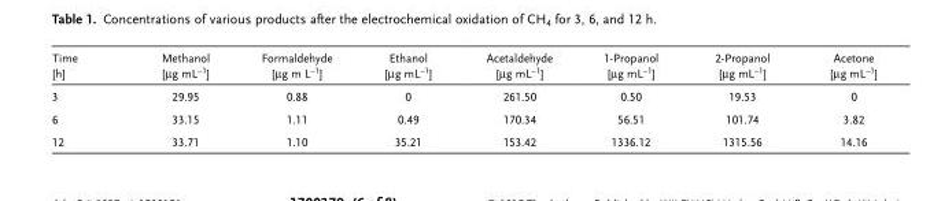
<table><thead><tr><td>Time [h]</td><td>Methanol [µg mL<sup>−1</sup>]</td><td>Formaldehyde [µg m L<sup>−1</sup>]</td><td>Ethanol [µg mL<sup>−1</sup>]</td><td>Acetaldehyde [µg mL<sup>−1</sup>]</td><td>1-Propanol [µg mL<sup>−1</sup>]</td><td>2-Propanol [µg mL<sup>−1</sup>]</td><td>Acetone [µg mL<sup>−1</sup>]</td></tr></thead><tbody><tr><td>3</td><td>29.95</td><td>0.88</td><td>0</td><td>261.50</td><td>0.50</td><td>19.53</td><td>0</td></tr><tr><td>6</td><td>33.15</td><td>1.11</td><td>0.49</td><td>170.34</td><td>56.51</td><td>101.74</td><td>3.82</td></tr><tr><td>12</td><td>33.71</td><td>1.10</td><td>35.21</td><td>153.42</td><td>1336.12</td><td>1315.56</td><td>14.16</td></tr></tbody></table>